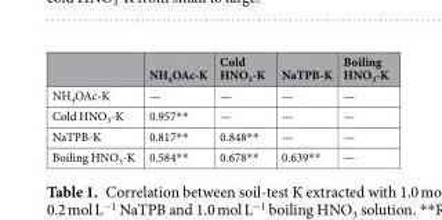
<table><thead><tr><td></td><td>NH<sub>4</sub>OAc-K</td><td>Cold HNO<sub>3</sub>-K</td><td>NaTPB-K</td><td>Boiling HNO<sub>3</sub>-K</td></tr></thead><tbody><tr><td>NH<sub>4</sub>OAc-K</td><td>—</td><td>—</td><td>—</td><td>—</td></tr><tr><td>Cold HNO<sub>3</sub>-K</td><td>0.957**</td><td>—</td><td>—</td><td>—</td></tr><tr><td>NaTPB-K</td><td>0.817**</td><td>0.848**</td><td>—</td><td>—</td></tr><tr><td>Boiling HNO<sub>3</sub>-K</td><td>0.584**</td><td>0.678**</td><td>0.639**</td><td>—</td></tr></tbody></table>